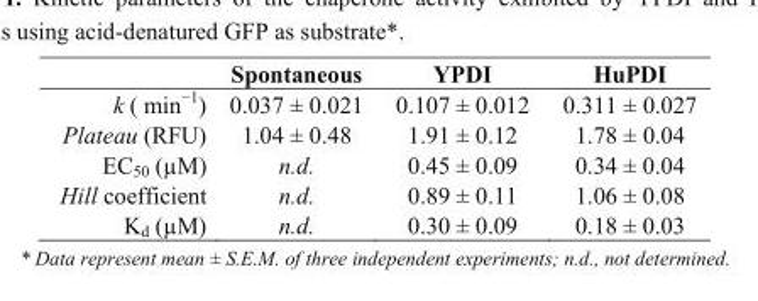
<table><thead><tr><td></td><td>Spontaneous</td><td>YPDI</td><td>HuPDI</td></tr></thead><tbody><tr><td>k ( min<sup>−1</sup>)</td><td>0.037 ± 0.021</td><td>0.107 ± 0.012</td><td>0.311 ± 0.027</td></tr><tr><td>Plateau (RFU)</td><td>1.04 ± 0.48</td><td>1.91 ± 0.12</td><td>1.78 ± 0.04</td></tr><tr><td>EC<sub>50</sub> (µM)</td><td>n.d.</td><td>0.45 ± 0.09</td><td>0.34 ± 0.04</td></tr><tr><td>Hill coefficient</td><td>n.d.</td><td>0.89 ± 0.11</td><td>1.06 ± 0.08</td></tr><tr><td>K<sub>d</sub> (µM)</td><td>n.d.</td><td>0.30 ± 0.09</td><td>0.18 ± 0.03</td></tr></tbody></table>